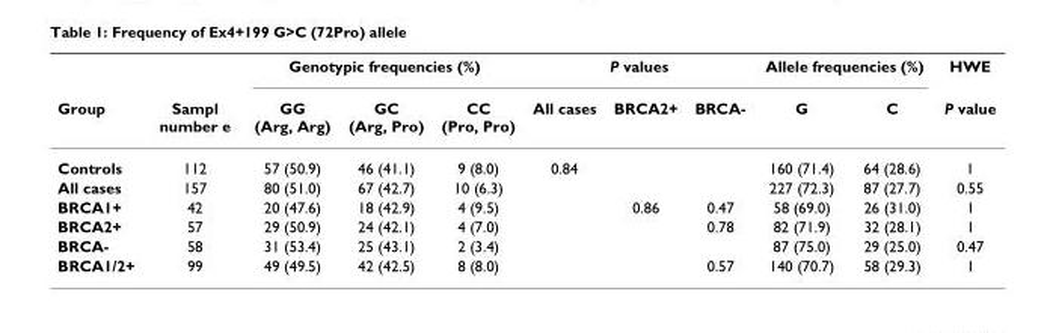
<table><thead><tr><td rowspan="2">Group</td><td rowspan="2">Sampl number e</td><td colspan="3">Genotypic frequencies (%)</td><td colspan="3">P values</td><td colspan="2">Allele frequencies (%)</td><td rowspan="2">HWE P value</td></tr><tr><td>GG (Arg, Arg)</td><td>GC (Arg, Pro)</td><td>CC (Pro, Pro)</td><td>All cases</td><td>BRCA2+</td><td>BRCA-</td><td>G</td><td>C</td></tr></thead><tbody><tr><td>Controls</td><td>112</td><td>57 (50.9)</td><td>46 (41.1)</td><td>9 (8.0)</td><td>0.84</td><td></td><td></td><td>160 (71.4)</td><td>64 (28.6)</td><td>1</td></tr><tr><td>All cases</td><td>157</td><td>80 (51.0)</td><td>67 (42.7)</td><td>10 (6.3)</td><td></td><td></td><td></td><td>227 (72.3)</td><td>87 (27.7)</td><td>0.55</td></tr><tr><td>BRCA1+</td><td>42</td><td>20 (47.6)</td><td>18 (42.9)</td><td>4 (9.5)</td><td></td><td>0.86</td><td>0.47</td><td>58 (69.0)</td><td>26 (31.0)</td><td>1</td></tr><tr><td>BRCA2+</td><td>57</td><td>29 (50.9)</td><td>24 (42.1)</td><td>4 (7.0)</td><td></td><td></td><td>0.78</td><td>82 (71.9)</td><td>32 (28.1)</td><td>1</td></tr><tr><td>BRCA-</td><td>58</td><td>31 (53.4)</td><td>25 (43.1)</td><td>2 (3.4)</td><td></td><td></td><td></td><td>87 (75.0)</td><td>29 (25.0)</td><td>0.47</td></tr><tr><td>BRCA1/2+</td><td>99</td><td>49 (49.5)</td><td>42 (42.5)</td><td>8 (8.0)</td><td></td><td></td><td>0.57</td><td>140 (70.7)</td><td>58 (29.3)</td><td>1</td></tr></tbody></table>